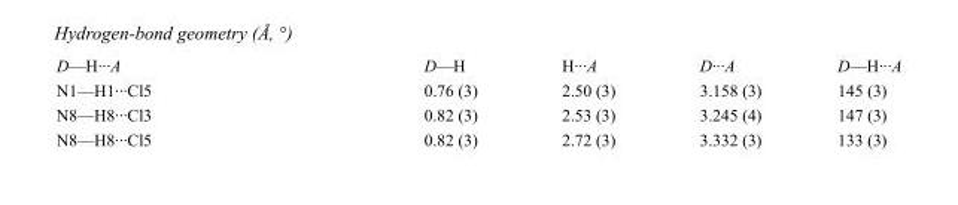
<table><tbody><tr><td>D—H···A</td><td>D—H</td><td>H···A</td><td>D···A</td><td>D—H···A</td></tr><tr><td>N1—H1···Cl5</td><td>0.76 (3)</td><td>2.50 (3)</td><td>3.158 (3)</td><td>145 (3)</td></tr><tr><td>N8—H8···Cl3</td><td>0.82 (3)</td><td>2.53 (3)</td><td>3.245 (4)</td><td>147 (3)</td></tr><tr><td>N8—H8···Cl5</td><td>0.82 (3)</td><td>2.72 (3)</td><td>3.332 (3)</td><td>133 (3)</td></tr></tbody></table>